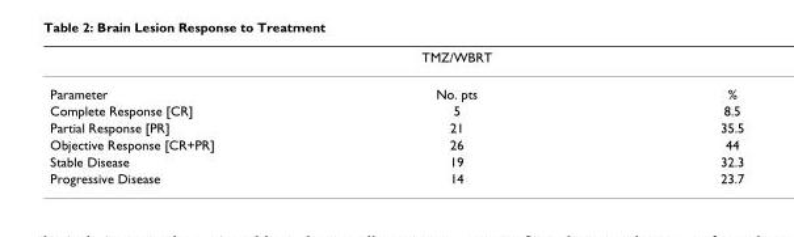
<table><thead><tr><td></td><td>TMZ/WBRT</td><td></td></tr></thead><tbody><tr><td>Parameter</td><td>No. pts</td><td>%</td></tr><tr><td>Complete Response [CR]</td><td>5</td><td>8.5</td></tr><tr><td>Partial Response [PR]</td><td>21</td><td>35.5</td></tr><tr><td>Objective Response [CR+PR]</td><td>26</td><td>44</td></tr><tr><td>Stable Disease</td><td>19</td><td>32.3</td></tr><tr><td>Progressive Disease</td><td>14</td><td>23.7</td></tr></tbody></table>